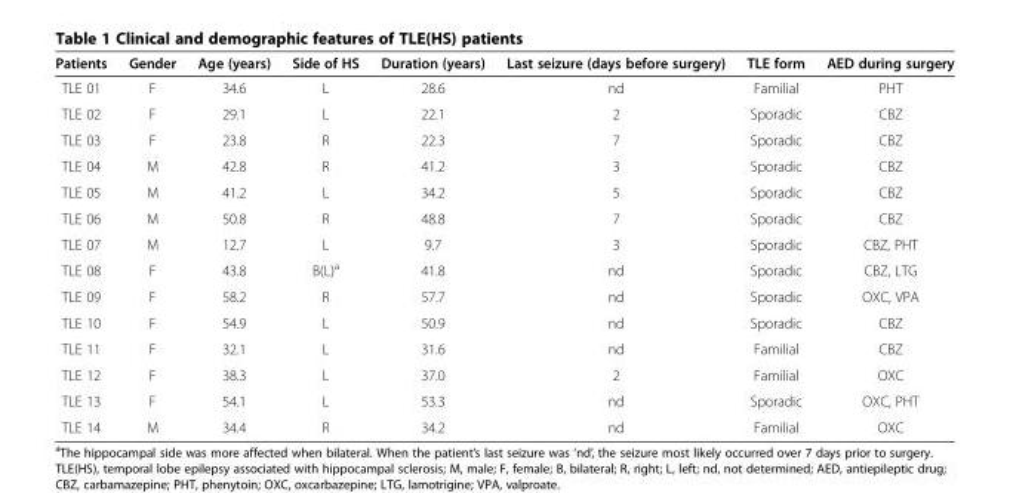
<table><thead><tr><td>Patients</td><td>Gender</td><td>Age (years)</td><td>Side of HS</td><td>Duration (years)</td><td>Last seizure (days before surgery)</td><td>TLE form</td><td>AED during surgery</td></tr></thead><tbody><tr><td>TLE 01</td><td>F</td><td>34.6</td><td>L</td><td>28.6</td><td>nd</td><td>Familial</td><td>PHT</td></tr><tr><td>TLE 02</td><td>F</td><td>29.1</td><td>L</td><td>22.1</td><td>2</td><td>Sporadic</td><td>CBZ</td></tr><tr><td>TLE 03</td><td>F</td><td>23.8</td><td>R</td><td>22.3</td><td>7</td><td>Sporadic</td><td>CBZ</td></tr><tr><td>TLE 04</td><td>M</td><td>42.8</td><td>R</td><td>41.2</td><td>3</td><td>Sporadic</td><td>CBZ</td></tr><tr><td>TLE 05</td><td>M</td><td>41.2</td><td>L</td><td>34.2</td><td>5</td><td>Sporadic</td><td>CBZ</td></tr><tr><td>TLE 06</td><td>M</td><td>50.8</td><td>R</td><td>48.8</td><td>7</td><td>Sporadic</td><td>CBZ</td></tr><tr><td>TLE 07</td><td>M</td><td>12.7</td><td>L</td><td>9.7</td><td>3</td><td>Sporadic</td><td>CBZ, PHT</td></tr><tr><td>TLE 08</td><td>F</td><td>43.8</td><td>B(L)<sup>a</sup></td><td>41.8</td><td>nd</td><td>Sporadic</td><td>CBZ, LTG</td></tr><tr><td>TLE 09</td><td>F</td><td>58.2</td><td>R</td><td>57.7</td><td>nd</td><td>Sporadic</td><td>OXC, VPA</td></tr><tr><td>TLE 10</td><td>F</td><td>54.9</td><td>L</td><td>50.9</td><td>nd</td><td>Sporadic</td><td>CBZ</td></tr><tr><td>TLE 11</td><td>F</td><td>32.1</td><td>L</td><td>31.6</td><td>nd</td><td>Familial</td><td>CBZ</td></tr><tr><td>TLE 12</td><td>F</td><td>38.3</td><td>L</td><td>37.0</td><td>2</td><td>Familial</td><td>OXC</td></tr><tr><td>TLE 13</td><td>F</td><td>54.1</td><td>L</td><td>53.3</td><td>nd</td><td>Sporadic</td><td>OXC, PHT</td></tr><tr><td>TLE 14</td><td>M</td><td>34.4</td><td>R</td><td>34.2</td><td>nd</td><td>Familial</td><td>OXC</td></tr></tbody></table>